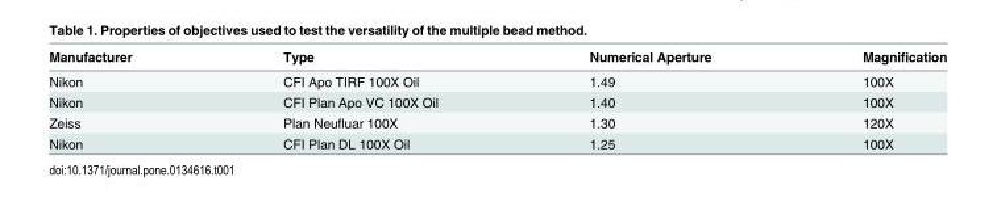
<table><thead><tr><td>Manufacturer</td><td>Type</td><td>Numerical Aperture</td><td>Magnification</td></tr></thead><tbody><tr><td>Nikon</td><td>CFI Apo TIRF 100X Oil</td><td>1.49</td><td>100X</td></tr><tr><td>Nikon</td><td>CFI Plan Apo VC 100X Oil</td><td>1.40</td><td>100X</td></tr><tr><td>Zeiss</td><td>Plan Neufluar 100X</td><td>1.30</td><td>120X</td></tr><tr><td>Nikon</td><td>CFI Plan DL 100X Oil</td><td>1.25</td><td>100X</td></tr></tbody></table>